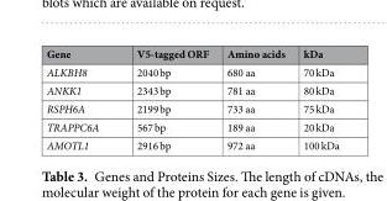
<table><thead><tr><td>Gene</td><td>V5-tagged ORF</td><td>Amino acids</td><td>kDa</td></tr></thead><tbody><tr><td>ALKBH8</td><td>2040 bp</td><td>680 aa</td><td>70 kDa</td></tr><tr><td>ANKK1</td><td>2343 bp</td><td>781 aa</td><td>80 kDa</td></tr><tr><td>RSPH6A</td><td>2199 bp</td><td>733 aa</td><td>75 kDa</td></tr><tr><td>TRAPPC6A</td><td>567 bp</td><td>189 aa</td><td>20 kDa</td></tr><tr><td>AMOTL1</td><td>2916 bp</td><td>972 aa</td><td>100 kDa</td></tr></tbody></table>